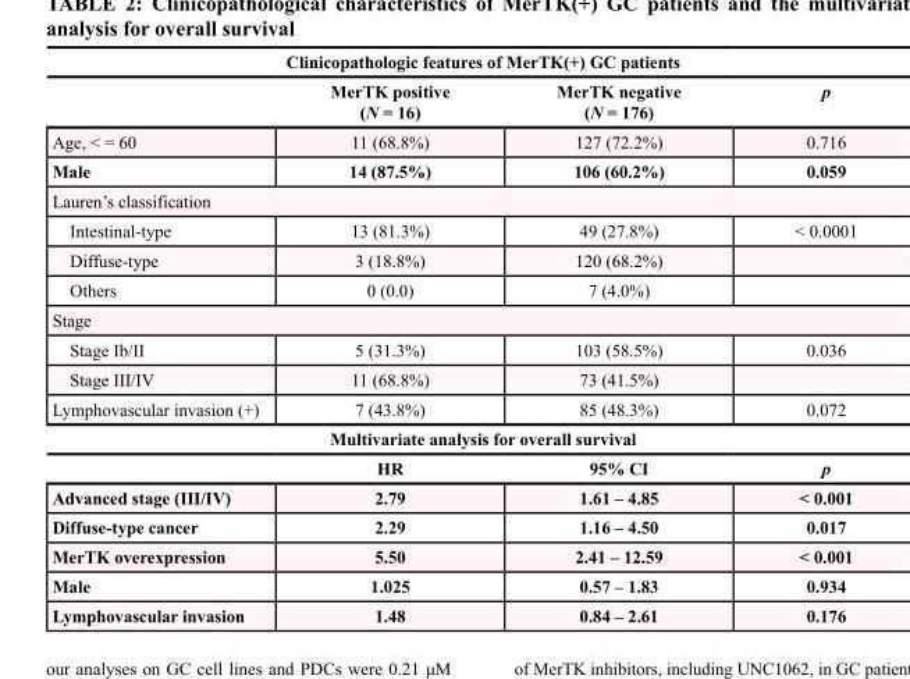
<table><thead><tr><td colspan="4">Clinicopathologic features of MerTK(+) GC patients</td></tr><tr><td></td><td>MerTK positive (N = 16)</td><td>MerTK negative (N = 176)</td><td>p</td></tr></thead><tbody><tr><td>Age, &lt; = 60</td><td>11 (68.8%)</td><td>127 (72.2%)</td><td>0.716</td></tr><tr><td>Male</td><td>14 (87.5%)</td><td>106 (60.2%)</td><td>0.059</td></tr><tr><td colspan="4">Lauren’s classification</td></tr><tr><td>Intestinal-type</td><td>13 (81.3%)</td><td>49 (27.8%)</td><td>&lt; 0.0001</td></tr><tr><td>Diffuse-type</td><td>3 (18.8%)</td><td>120 (68.2%)</td><td></td></tr><tr><td>Others</td><td>0 (0.0)</td><td>7 (4.0%)</td><td></td></tr><tr><td colspan="4">Stage</td></tr><tr><td>Stage Ib/II</td><td>5 (31.3%)</td><td>103 (58.5%)</td><td>0.036</td></tr><tr><td>Stage III/IV</td><td>11 (68.8%)</td><td>73 (41.5%)</td><td></td></tr><tr><td>Lymphovascular invasion (+)</td><td>7 (43.8%)</td><td>85 (48.3%)</td><td>0.072</td></tr><tr><td colspan="4">Multivariate analysis for overall survival</td></tr><tr><td></td><td>HR</td><td>95% CI</td><td>p</td></tr><tr><td>Advanced stage (III/IV)</td><td>2.79</td><td>1.61 – 4.85</td><td>&lt; 0.001</td></tr><tr><td>Diffuse-type cancer</td><td>2.29</td><td>1.16 – 4.50</td><td>0.017</td></tr><tr><td>MerTK overexpression</td><td>5.50</td><td>2.41 – 12.59</td><td>&lt; 0.001</td></tr><tr><td>Male</td><td>1.025</td><td>0.57 – 1.83</td><td>0.934</td></tr><tr><td>Lymphovascular invasion</td><td>1.48</td><td>0.84 – 2.61</td><td>0.176</td></tr></tbody></table>